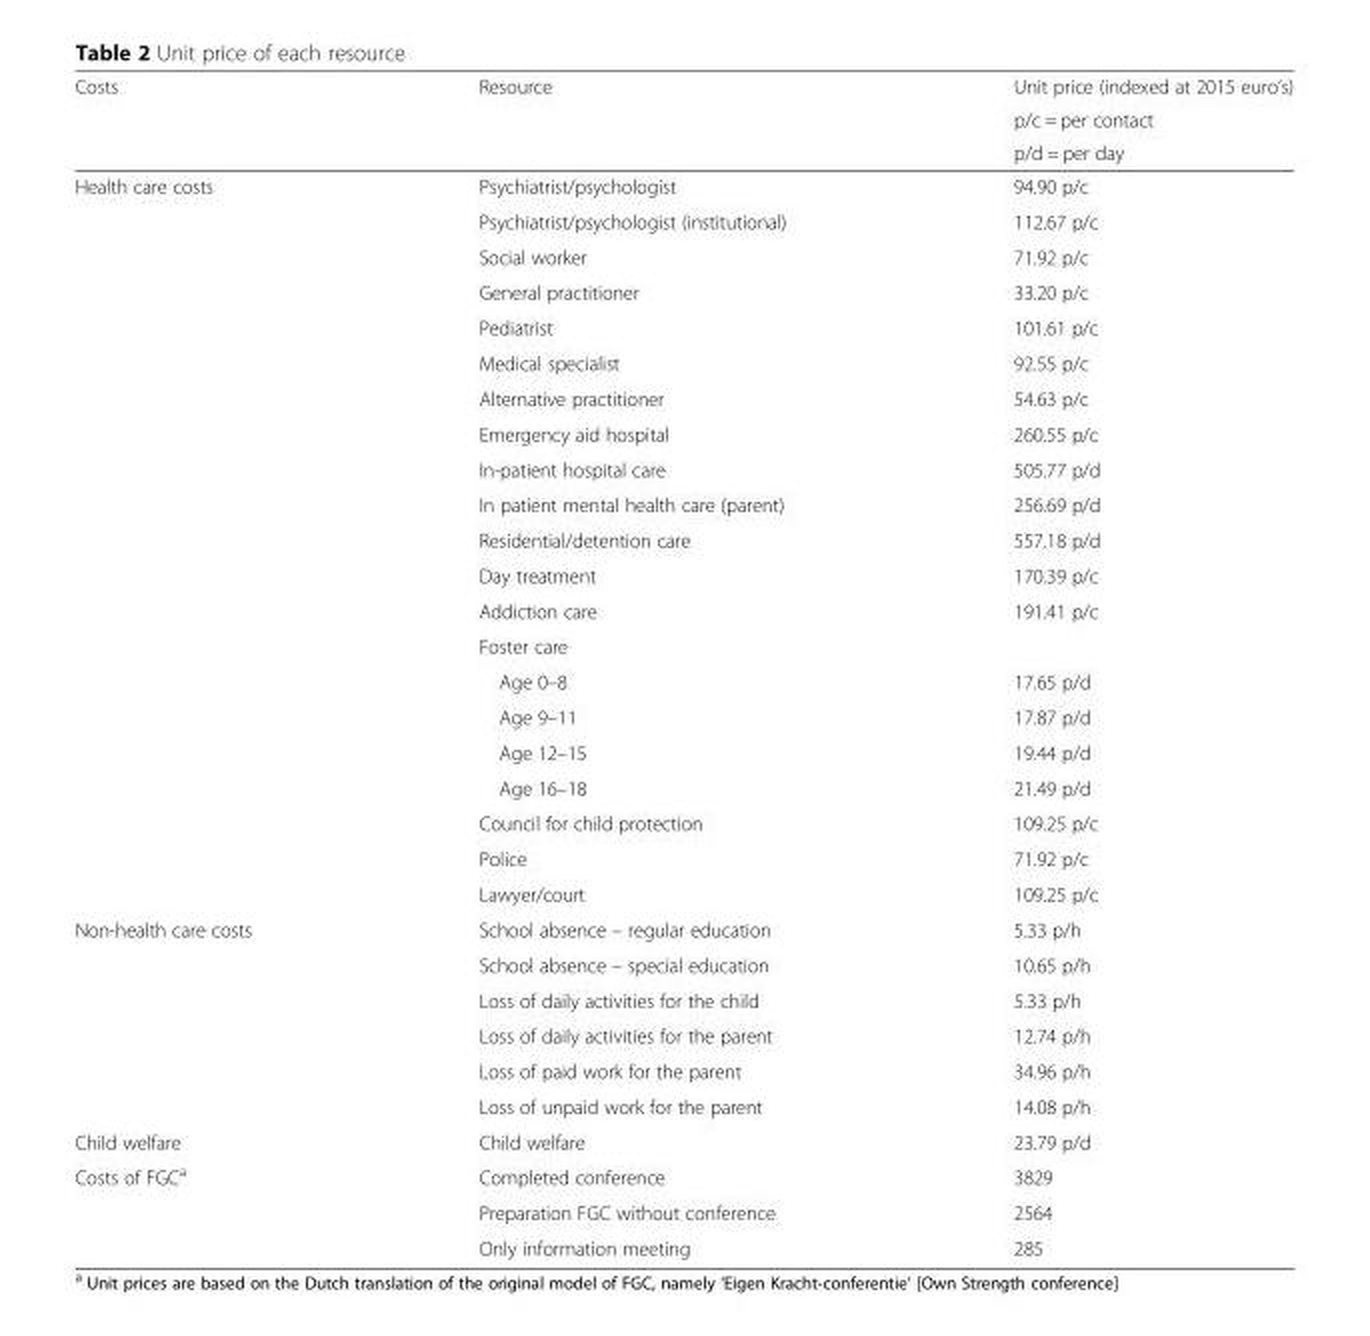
<table><thead><tr><td rowspan="3">Costs</td><td rowspan="3">Resource</td><td rowspan="3">Unit price (indexed at 2015 euro’s) p/c = per contact p/d = per day</td></tr><tr></tr><tr></tr></thead><tbody><tr><td rowspan="21">Health care costs</td><td>Psychiatrist/psychologist</td><td>94.90 p/c</td></tr><tr><td>Psychiatrist/psychologist (institutional)</td><td>112.67 p/c</td></tr><tr><td>Social worker</td><td>71.92 p/c</td></tr><tr><td>General practitioner</td><td>33.20 p/c</td></tr><tr><td>Pediatrist</td><td>101.61 p/c</td></tr><tr><td>Medical specialist</td><td>92.55 p/c</td></tr><tr><td>Alternative practitioner</td><td>54.63 p/c</td></tr><tr><td>Emergency aid hospital</td><td>260.55 p/c</td></tr><tr><td>In-patient hospital care</td><td>505.77 p/d</td></tr><tr><td>In patient mental health care (parent)</td><td>256.69 p/d</td></tr><tr><td>Residential/detention care</td><td>557.18 p/d</td></tr><tr><td>Day treatment</td><td>170.39 p/c</td></tr><tr><td>Addiction care</td><td>191.41 p/c</td></tr><tr><td>Foster care</td><td></td></tr><tr><td>Age 0–8</td><td>17.65 p/d</td></tr><tr><td>Age 9–11</td><td>17.87 p/d</td></tr><tr><td>Age 12–15</td><td>19.44 p/d</td></tr><tr><td>Age 16–18</td><td>21.49 p/d</td></tr><tr><td>Council for child protection</td><td>109.25 p/c</td></tr><tr><td>Police</td><td>71.92 p/c</td></tr><tr><td>Lawyer/court</td><td>109.25 p/c</td></tr><tr><td rowspan="6">Non-health care costs</td><td>School absence – regular education</td><td>5.33 p/h</td></tr><tr><td>School absence – special education</td><td>10.65 p/h</td></tr><tr><td>Loss of daily activities for the child</td><td>5.33 p/h</td></tr><tr><td>Loss of daily activities for the parent</td><td>12.74 p/h</td></tr><tr><td>Loss of paid work for the parent</td><td>34.96 p/h</td></tr><tr><td>Loss of unpaid work for the parent</td><td>14.08 p/h</td></tr><tr><td>Child welfare</td><td>Child welfare</td><td>23.79 p/d</td></tr><tr><td rowspan="3">Costs of FGC<sup>a</sup></td><td>Completed conference</td><td>3829</td></tr><tr><td>Preparation FGC without conference</td><td>2564</td></tr><tr><td>Only information meeting</td><td>285</td></tr></tbody></table>